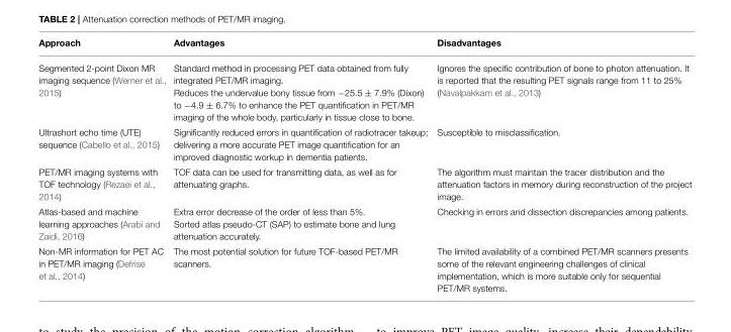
<table><thead><tr><td>Approach</td><td>Advantages</td><td>Disadvantages</td></tr></thead><tbody><tr><td>Segmented 2-point Dixon MR imaging sequence (Werner et al., 2015)</td><td>Standard method in processing PET data obtained from fully integrated PET/MR imaging. Reduces the undervalue bony tissue from −25.5 ± 7.9% (Dixon) to −4.9 ± 6.7% to enhance the PET quantification in PET/MR imaging of the whole body, particularly in tissue close to bone.</td><td>Ignores the specific contribution of bone to photon attenuation. It is reported that the resulting PET signals range from 11 to 25% (Navalpakkam et al., 2013)</td></tr><tr><td>Ultrashort echo time (UTE) sequence (Cabello et al., 2015)</td><td>Significantly reduced errors in quantification of radiotracer takeup; delivering a more accurate PET image quantification for an improved diagnostic workup in dementia patients.</td><td>Susceptible to misclassification.</td></tr><tr><td>PET/MR imaging systems with TOF technology (Rezaei et al., 2014)</td><td>TOF data can be used for transmitting data, as well as for attenuating graphs.</td><td>The algorithm must maintain the tracer distribution and the attenuation factors in memory during reconstruction of the project image.</td></tr><tr><td>Atlas-based and machine learning approaches (Arabi and Zaidi, 2016)</td><td>Extra error decrease of the order of less than 5%. Sorted atlas pseudo-CT (SAP) to estimate bone and lung attenuation accurately.</td><td>Checking in errors and dissection discrepancies among patients.</td></tr><tr><td>Non-MR information for PET AC in PET/MR imaging (Defrise et al., 2014)</td><td>The most potential solution for future TOF-based PET/MR scanners.</td><td>The limited availability of a combined PET/MR scanners presents some of the relevant engineering challenges of clinical implementation, which is more suitable only for sequential PET/MR systems.</td></tr></tbody></table>